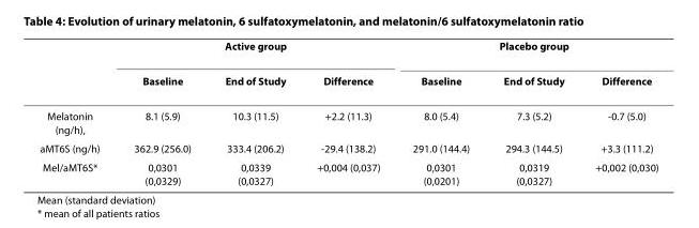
<table><thead><tr><td rowspan="2"></td><td colspan="3">Active group</td><td colspan="3">Placebo group</td></tr><tr><td>Baseline</td><td>End of Study</td><td>Difference</td><td>Baseline</td><td>End of Study</td><td>Difference</td></tr></thead><tbody><tr><td>Melatonin (ng/h),</td><td>8.1 (5.9)</td><td>10.3 (11.5)</td><td>+2.2 (11.3)</td><td>8.0 (5.4)</td><td>7.3 (5.2)</td><td>-0.7 (5.0)</td></tr><tr><td>aMT6S (ng/h)</td><td>362.9 (256.0)</td><td>333.4 (206.2)</td><td>-29.4 (138.2)</td><td>291.0 (144.4)</td><td>294.3 (144.5)</td><td>+3.3 (111.2)</td></tr><tr><td>Mel/aMT6S*</td><td>0,0301 (0,0329)</td><td>0,0339 (0,0327)</td><td>+0,004 (0,037)</td><td>0,0301 (0,0201)</td><td>0,0319 (0,0327)</td><td>+0,002 (0,030)</td></tr></tbody></table>